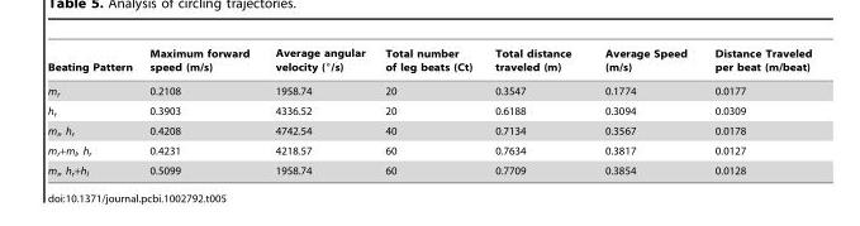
<table><thead><tr><td>Beating Pattern</td><td>Maximum forward speed (m/s)</td><td>Average angular velocity (°/s)</td><td>Total number of leg beats (Ct)</td><td>Total distance traveled (m)</td><td>Average Speed (m/s)</td><td>Distance Traveled per beat (m/beat)</td></tr></thead><tbody><tr><td>m<sub>r</sub></td><td>0.2108</td><td>1958.74</td><td>20</td><td>0.3547</td><td>0.1774</td><td>0.0177</td></tr><tr><td>h<sub>r</sub></td><td>0.3903</td><td>4336.52</td><td>20</td><td>0.6188</td><td>0.3094</td><td>0.0309</td></tr><tr><td>m<sub>r</sub>, h<sub>r</sub></td><td>0.4208</td><td>4742.54</td><td>40</td><td>0.7134</td><td>0.3567</td><td>0.0178</td></tr><tr><td>m<sub>r</sub>+m<sub>l</sub>, h<sub>r</sub></td><td>0.4231</td><td>4218.57</td><td>60</td><td>0.7634</td><td>0.3817</td><td>0.0127</td></tr><tr><td>m<sub>r</sub>, h<sub>r</sub>+h<sub>l</sub></td><td>0.5099</td><td>1958.74</td><td>60</td><td>0.7709</td><td>0.3854</td><td>0.0128</td></tr></tbody></table>